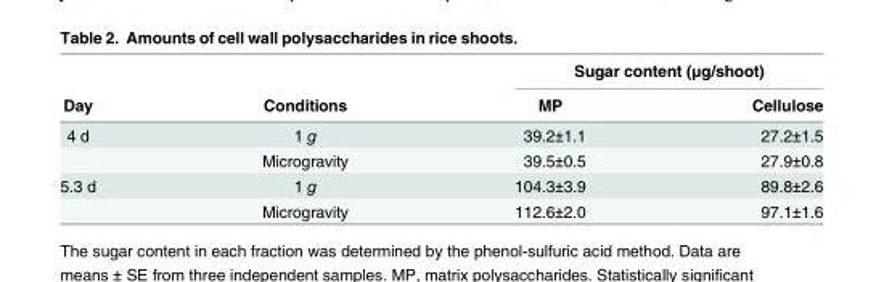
<table><thead><tr><td rowspan="2">Day</td><td rowspan="2">Conditions</td><td colspan="2">Sugar content (μg/shoot)</td></tr><tr><td>MP</td><td>Cellulose</td></tr></thead><tbody><tr><td rowspan="2">4 d</td><td>1 g</td><td>39.2±1.1</td><td>27.2±1.5</td></tr><tr><td>Microgravity</td><td>39.5±0.5</td><td>27.9±0.8</td></tr><tr><td rowspan="2">5.3 d</td><td>1 g</td><td>104.3±3.9</td><td>89.8±2.6</td></tr><tr><td>Microgravity</td><td>112.6±2.0</td><td>97.1±1.6</td></tr></tbody></table>